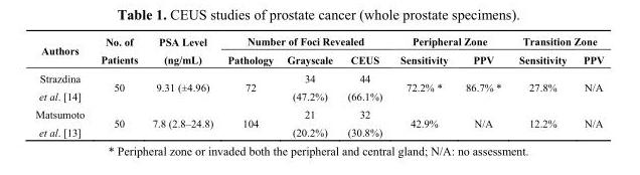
<table><thead><tr><td rowspan="2">Authors</td><td rowspan="2">No. of Patients</td><td rowspan="2">PSA Level (ng/mL)</td><td colspan="3">Number of Foci Revealed</td><td colspan="2">Peripheral Zone</td><td colspan="2">Transition Zone</td></tr><tr><td>Pathology</td><td>Grayscale</td><td>CEUS</td><td>Sensitivity</td><td>PPV</td><td>Sensitivity</td><td>PPV</td></tr></thead><tbody><tr><td>Strazdina et al. [14]</td><td>50</td><td>9.31 (±4.96)</td><td>72</td><td>34 (47.2%)</td><td>44 (66.1%)</td><td>72.2% *</td><td>86.7% *</td><td>27.8%</td><td>N/A</td></tr><tr><td>Matsumoto et al. [13]</td><td>50</td><td>7.8 (2.8–24.8)</td><td>104</td><td>21 (20.2%)</td><td>32 (30.8%)</td><td>42.9%</td><td>N/A</td><td>12.2%</td><td>N/A</td></tr></tbody></table>